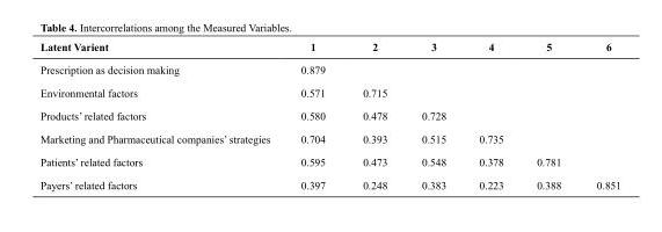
<table><thead><tr><td>Latent Varient</td><td>1</td><td>2</td><td>3</td><td>4</td><td>5</td><td>6</td></tr></thead><tbody><tr><td>Prescription as decision making</td><td>0.879</td><td></td><td></td><td></td><td></td><td></td></tr><tr><td>Environmental factors</td><td>0.571</td><td>0.715</td><td></td><td></td><td></td><td></td></tr><tr><td>Products’ related factors</td><td>0.580</td><td>0.478</td><td>0.728</td><td></td><td></td><td></td></tr><tr><td>Marketing and Pharmaceutical companies’ strategies</td><td>0.704</td><td>0.393</td><td>0.515</td><td>0.735</td><td></td><td></td></tr><tr><td>Patients’ related factors</td><td>0.595</td><td>0.473</td><td>0.548</td><td>0.378</td><td>0.781</td><td></td></tr><tr><td>Payers’ related factors</td><td>0.397</td><td>0.248</td><td>0.383</td><td>0.223</td><td>0.388</td><td>0.851</td></tr></tbody></table>